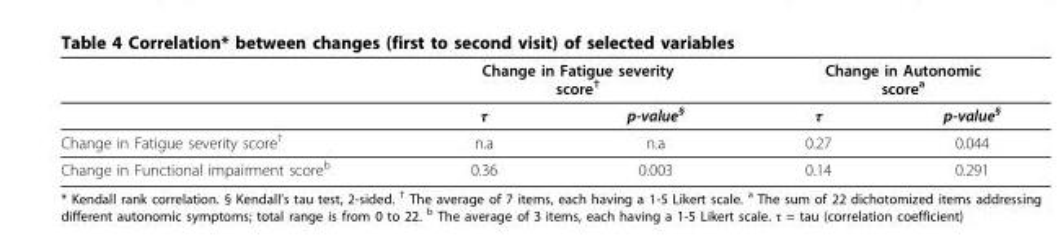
<table><thead><tr><td rowspan="2"></td><td colspan="2">Change in Fatigue severity score<sup>†</sup></td><td colspan="2">Change in Autonomic score<sup>a</sup></td></tr><tr><td>τ</td><td>p-value<sup>§</sup></td><td>τ</td><td>p-value<sup>§</sup></td></tr></thead><tbody><tr><td>Change in Fatigue severity score<sup>†</sup></td><td>n.a</td><td>n.a</td><td>0.27</td><td>0.044</td></tr><tr><td>Change in Functional impairment score<sup>b</sup></td><td>0.36</td><td>0.003</td><td>0.14</td><td>0.291</td></tr></tbody></table>